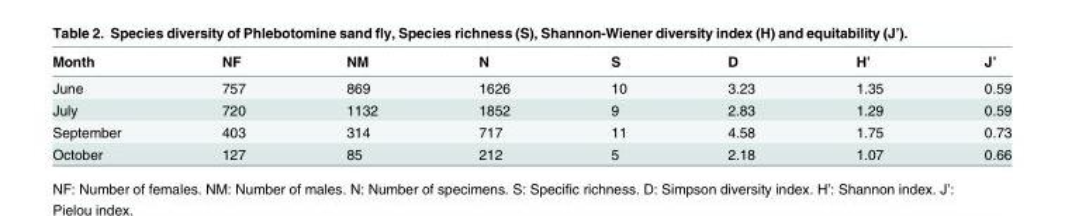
<table><thead><tr><td>Month</td><td>NF</td><td>NM</td><td>N</td><td>S</td><td>D</td><td>H’</td><td>J’</td></tr></thead><tbody><tr><td>June</td><td>757</td><td>869</td><td>1626</td><td>10</td><td>3.23</td><td>1.35</td><td>0.59</td></tr><tr><td>July</td><td>720</td><td>1132</td><td>1852</td><td>9</td><td>2.83</td><td>1.29</td><td>0.59</td></tr><tr><td>September</td><td>403</td><td>314</td><td>717</td><td>11</td><td>4.58</td><td>1.75</td><td>0.73</td></tr><tr><td>October</td><td>127</td><td>85</td><td>212</td><td>5</td><td>2.18</td><td>1.07</td><td>0.66</td></tr></tbody></table>